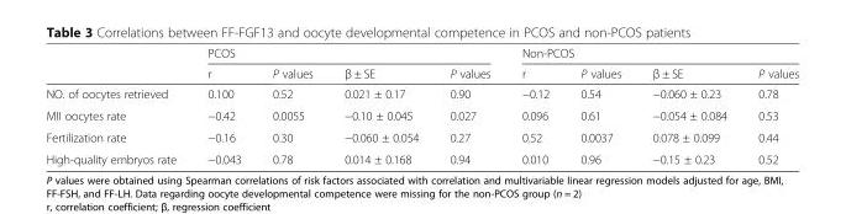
<table><thead><tr><td rowspan="2"></td><td colspan="4">PCOS</td><td colspan="4">Non-PCOS</td></tr><tr><td>r</td><td>P values</td><td>β ± SE</td><td>P values</td><td>r</td><td>P values</td><td>β ± SE</td><td>P values</td></tr></thead><tbody><tr><td>NO. of oocytes retrieved</td><td>0.100</td><td>0.52</td><td>0.021 ± 0.17</td><td>0.90</td><td>−0.12</td><td>0.54</td><td>−0.060 ± 0.23</td><td>0.78</td></tr><tr><td>MII oocytes rate</td><td>−0.42</td><td>0.0055</td><td>−0.10 ± 0.045</td><td>0.027</td><td>0.096</td><td>0.61</td><td>−0.054 ± 0.084</td><td>0.53</td></tr><tr><td>Fertilization rate</td><td>−0.16</td><td>0.30</td><td>−0.060 ± 0.054</td><td>0.27</td><td>0.52</td><td>0.0037</td><td>0.078 ± 0.099</td><td>0.44</td></tr><tr><td>High-quality embryos rate</td><td>−0.043</td><td>0.78</td><td>0.014 ± 0.168</td><td>0.94</td><td>0.010</td><td>0.96</td><td>−0.15 ± 0.23</td><td>0.52</td></tr></tbody></table>